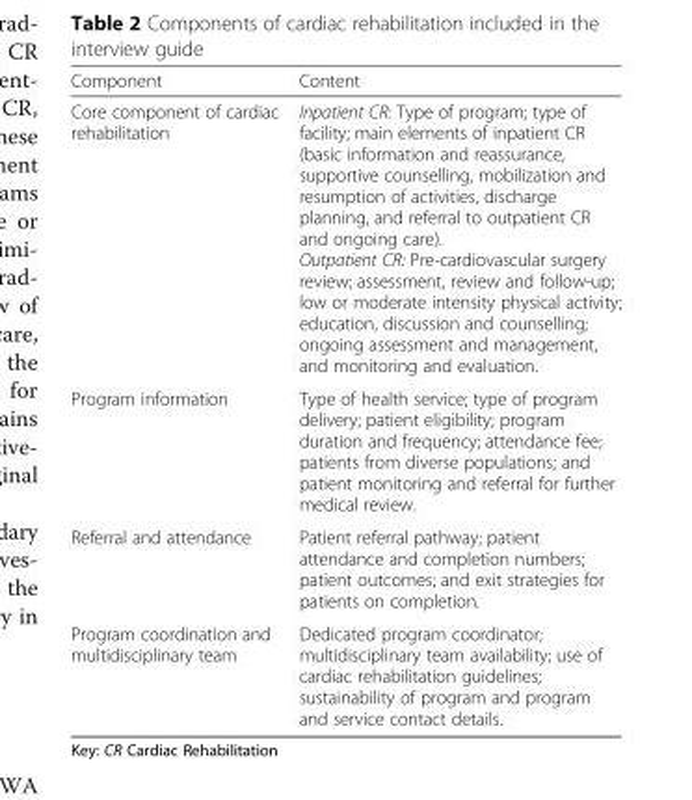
<table><thead><tr><td>Component</td><td>Content</td></tr></thead><tbody><tr><td>Core component of cardiac rehabilitation</td><td>Inpatient CR: Type of program; type of facility; main elements of inpatient CR (basic information and reassurance, supportive counselling, mobilization and resumption of activities, discharge planning, and referral to outpatient CR and ongoing care). Outpatient CR: Pre-cardiovascular surgery review; assessment, review and follow-up; low or moderate intensity physical activity; education, discussion and counselling; ongoing assessment and management, and monitoring and evaluation.</td></tr><tr><td>Program information</td><td>Type of health service; type of program delivery; patient eligibility; program duration and frequency; attendance fee; patients from diverse populations; and patient monitoring and referral for further medical review.</td></tr><tr><td>Referral and attendance</td><td>Patient referral pathway; patient attendance and completion numbers; patient outcomes; and exit strategies for patients on completion.</td></tr><tr><td>Program coordination and multidisciplinary team</td><td>Dedicated program coordinator; multidisciplinary team availability; use of cardiac rehabilitation guidelines; sustainability of program and program and service contact details.</td></tr></tbody></table>